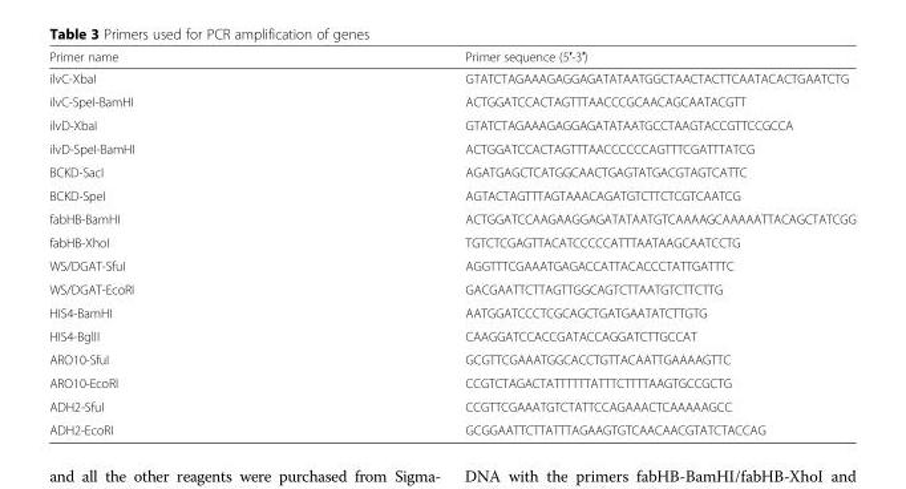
<table><thead><tr><td>Primer name</td><td>Primer sequence (5′-3′)</td></tr></thead><tbody><tr><td>ilvC-XbaI</td><td>GTATCTAGAAAGAGGAGATATAATGGCTAACTACTTCAATACACTGAATCTG</td></tr><tr><td>ilvC-SpeI-BamHI</td><td>ACTGGATCCACTAGTTTAACCCGCAACAGCAATACGTT</td></tr><tr><td>ilvD-XbaI</td><td>GTATCTAGAAAGAGGAGATATAATGCCTAAGTACCGTTCCGCCA</td></tr><tr><td>ilvD-SpeI-BamHI</td><td>ACTGGATCCACTAGTTTAACCCCCCAGTTTCGATTTATCG</td></tr><tr><td>BCKD-SacI</td><td>AGATGAGCTCATGGCAACTGAGTATGACGTAGTCATTC</td></tr><tr><td>BCKD-SpeI</td><td>AGTACTAGTTTAGTAAACAGATGTCTTCTCGTCAATCG</td></tr><tr><td>fabHB-BamHI</td><td>ACTGGATCCAAGAAGGAGATATAATGTCAAAAGCAAAAATTACAGCTATCGG</td></tr><tr><td>fabHB-XhoI</td><td>TGTCTCGAGTTACATCCCCCATTTAATAAGCAATCCTG</td></tr><tr><td>WS/DGAT-SfuI</td><td>AGGTTTCGAAATGAGACCATTACACCCTATTGATTTC</td></tr><tr><td>WS/DGAT-EcoRI</td><td>GACGAATTCTTAGTTGGCAGTCTTAATGTCTTCTTG</td></tr><tr><td>HIS4-BamHI</td><td>AATGGATCCCTCGCAGCTGATGAATATCTTGTG</td></tr><tr><td>HIS4-BglII</td><td>CAAGGATCCACCGATACCAGGATCTTGCCAT</td></tr><tr><td>ARO10-SfuI</td><td>GCGTTCGAAATGGCACCTGTTACAATTGAAAAGTTC</td></tr><tr><td>ARO10-EcoRI</td><td>CCGTCTAGACTATTTTTTATTTCTTTTAAGTGCCGCTG</td></tr><tr><td>ADH2-SfuI</td><td>CCGTTCGAAATGTCTATTCCAGAAACTCAAAAAGCC</td></tr><tr><td>ADH2-EcoRI</td><td>GCGGAATTCTTATTTAGAAGTGTCAACAACGTATCTACCAG</td></tr></tbody></table>